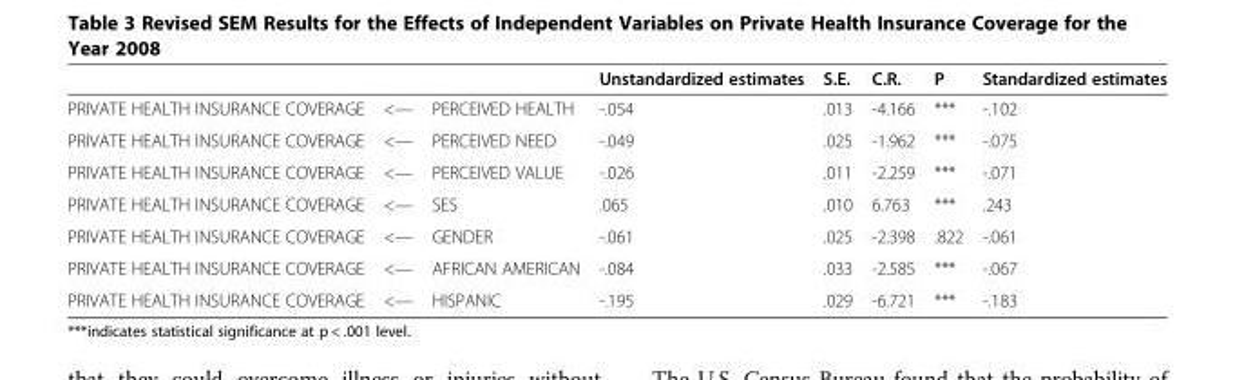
<table><thead><tr><td></td><td></td><td></td><td>Unstandardized estimates</td><td>S.E.</td><td>C.R.</td><td>P</td><td>Standardized estimates</td></tr></thead><tbody><tr><td>PRIVATE HEALTH INSURANCE COVERAGE</td><td>&lt;—</td><td>PERCEIVED HEALTH</td><td>-.054</td><td>.013</td><td>-4.166</td><td>***</td><td>-.102</td></tr><tr><td>PRIVATE HEALTH INSURANCE COVERAGE</td><td>&lt;—</td><td>PERCEIVED NEED</td><td>-.049</td><td>.025</td><td>-1.962</td><td>***</td><td>-.075</td></tr><tr><td>PRIVATE HEALTH INSURANCE COVERAGE</td><td>&lt;—</td><td>PERCEIVED VALUE</td><td>-.026</td><td>.011</td><td>-2.259</td><td>***</td><td>-.071</td></tr><tr><td>PRIVATE HEALTH INSURANCE COVERAGE</td><td>&lt;—</td><td>SES</td><td>.065</td><td>.010</td><td>6.763</td><td>***</td><td>.243</td></tr><tr><td>PRIVATE HEALTH INSURANCE COVERAGE</td><td>&lt;—</td><td>GENDER</td><td>-.061</td><td>.025</td><td>-2.398</td><td>.822</td><td>-.061</td></tr><tr><td>PRIVATE HEALTH INSURANCE COVERAGE</td><td>&lt;—</td><td>AFRICAN AMERICAN</td><td>-.084</td><td>.033</td><td>-2.585</td><td>***</td><td>-.067</td></tr><tr><td>PRIVATE HEALTH INSURANCE COVERAGE</td><td>&lt;—</td><td>HISPANIC</td><td>-.195</td><td>.029</td><td>-6.721</td><td>***</td><td>-.183</td></tr></tbody></table>